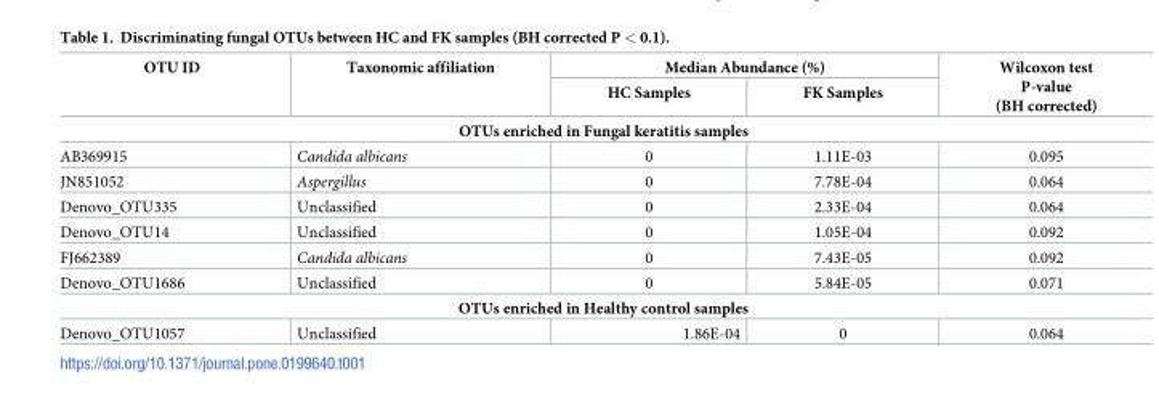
<table><thead><tr><td rowspan="2">OTU ID</td><td rowspan="2">Taxonomic affiliation</td><td colspan="2">Median Abundance (%)</td><td rowspan="2">Wilcoxon test P-value (BH corrected)</td></tr><tr><td>HC Samples</td><td>FK Samples</td></tr></thead><tbody><tr><td colspan="5">OTUs enriched in Fungal keratitis samples</td></tr><tr><td>AB369915</td><td>Candida albicans</td><td>0</td><td>1.11E-03</td><td>0.095</td></tr><tr><td>JN851052</td><td>Aspergillus</td><td>0</td><td>7.78E-04</td><td>0.064</td></tr><tr><td>Denovo_OTU335</td><td>Unclassified</td><td>0</td><td>2.33E-04</td><td>0.064</td></tr><tr><td>Denovo_OTU14</td><td>Unclassified</td><td>0</td><td>1.05E-04</td><td>0.092</td></tr><tr><td>FJ662389</td><td>Candida albicans</td><td>0</td><td>7.43E-05</td><td>0.092</td></tr><tr><td>Denovo_OTU1686</td><td>Unclassified</td><td>0</td><td>5.84E-05</td><td>0.071</td></tr><tr><td colspan="5">OTUs enriched in Healthy control samples</td></tr><tr><td>Denovo_OTU1057</td><td>Unclassified</td><td>1.86E-04</td><td>0</td><td>0.064</td></tr></tbody></table>